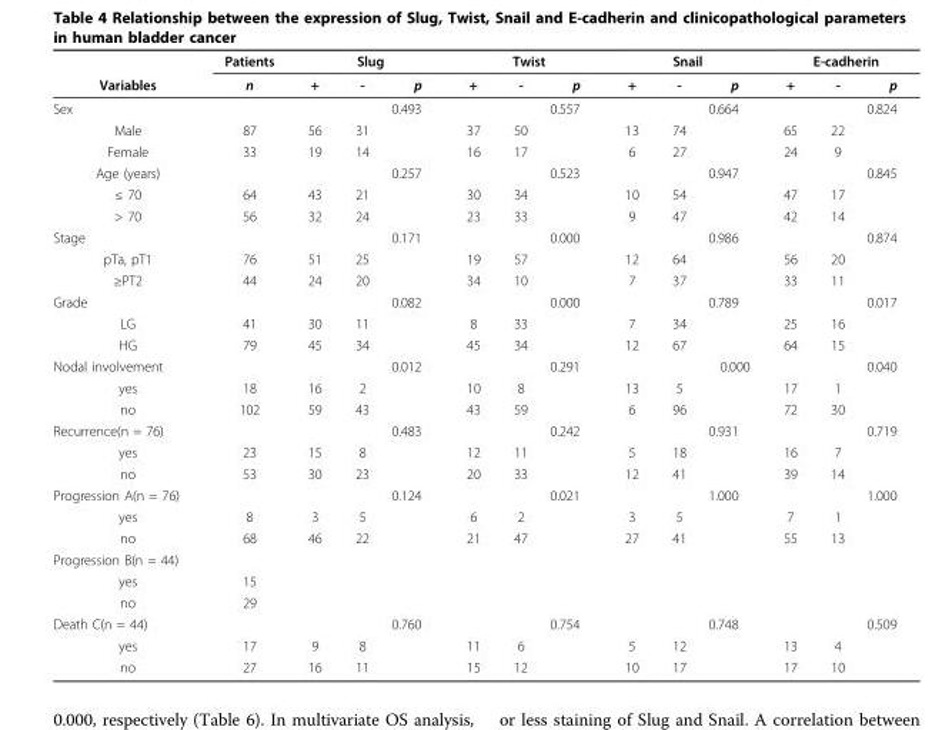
<table><thead><tr><td rowspan="2">Variables</td><td rowspan="2">Patients n</td><td colspan="3">Slug</td><td colspan="3">Twist</td><td colspan="3">Snail</td><td colspan="3">E-cadherin</td></tr><tr><td>+</td><td>-</td><td>p</td><td>+</td><td>-</td><td>p</td><td>+</td><td>-</td><td>p</td><td>+</td><td>-</td><td>p</td></tr></thead><tbody><tr><td>Sex</td><td></td><td></td><td></td><td>0.493</td><td></td><td></td><td>0.557</td><td></td><td></td><td>0.664</td><td></td><td></td><td>0.824</td></tr><tr><td>Male</td><td>87</td><td>56</td><td>31</td><td></td><td>37</td><td>50</td><td></td><td>13</td><td>74</td><td></td><td>65</td><td>22</td><td></td></tr><tr><td>Female</td><td>33</td><td>19</td><td>14</td><td></td><td>16</td><td>17</td><td></td><td>6</td><td>27</td><td></td><td>24</td><td>9</td><td></td></tr><tr><td>Age (years)</td><td></td><td></td><td></td><td>0.257</td><td></td><td></td><td>0.523</td><td></td><td></td><td>0.947</td><td></td><td></td><td>0.845</td></tr><tr><td>≤ 70</td><td>64</td><td>43</td><td>21</td><td></td><td>30</td><td>34</td><td></td><td>10</td><td>54</td><td></td><td>47</td><td>17</td><td></td></tr><tr><td>&gt; 70</td><td>56</td><td>32</td><td>24</td><td></td><td>23</td><td>33</td><td></td><td>9</td><td>47</td><td></td><td>42</td><td>14</td><td></td></tr><tr><td>Stage</td><td></td><td></td><td></td><td>0.171</td><td></td><td></td><td>0.000</td><td></td><td></td><td>0.986</td><td></td><td></td><td>0.874</td></tr><tr><td>pTa, pT1</td><td>76</td><td>51</td><td>25</td><td></td><td>19</td><td>57</td><td></td><td>12</td><td>64</td><td></td><td>56</td><td>20</td><td></td></tr><tr><td>≥PT2</td><td>44</td><td>24</td><td>20</td><td></td><td>34</td><td>10</td><td></td><td>7</td><td>37</td><td></td><td>33</td><td>11</td><td></td></tr><tr><td>Grade</td><td></td><td></td><td></td><td>0.082</td><td></td><td></td><td>0.000</td><td></td><td></td><td>0.789</td><td></td><td></td><td>0.017</td></tr><tr><td>LG</td><td>41</td><td>30</td><td>11</td><td></td><td>8</td><td>33</td><td></td><td>7</td><td>34</td><td></td><td>25</td><td>16</td><td></td></tr><tr><td>HG</td><td>79</td><td>45</td><td>34</td><td></td><td>45</td><td>34</td><td></td><td>12</td><td>67</td><td></td><td>64</td><td>15</td><td></td></tr><tr><td>Nodal involvement</td><td></td><td></td><td></td><td>0.012</td><td></td><td></td><td>0.291</td><td></td><td></td><td>0.000</td><td></td><td></td><td>0.040</td></tr><tr><td>yes</td><td>18</td><td>16</td><td>2</td><td></td><td>10</td><td>8</td><td></td><td>13</td><td>5</td><td></td><td>17</td><td>1</td><td></td></tr><tr><td>no</td><td>102</td><td>59</td><td>43</td><td></td><td>43</td><td>59</td><td></td><td>6</td><td>96</td><td></td><td>72</td><td>30</td><td></td></tr><tr><td>Recurrence(n = 76)</td><td></td><td></td><td></td><td>0.483</td><td></td><td></td><td>0.242</td><td></td><td></td><td>0.931</td><td></td><td></td><td>0.719</td></tr><tr><td>yes</td><td>23</td><td>15</td><td>8</td><td></td><td>12</td><td>11</td><td></td><td>5</td><td>18</td><td></td><td>16</td><td>7</td><td></td></tr><tr><td>no</td><td>53</td><td>30</td><td>23</td><td></td><td>20</td><td>33</td><td></td><td>12</td><td>41</td><td></td><td>39</td><td>14</td><td></td></tr><tr><td>Progression A(n = 76)</td><td></td><td></td><td></td><td>0.124</td><td></td><td></td><td>0.021</td><td></td><td></td><td>1.000</td><td></td><td></td><td>1.000</td></tr><tr><td>yes</td><td>8</td><td>3</td><td>5</td><td></td><td>6</td><td>2</td><td></td><td>3</td><td>5</td><td></td><td>7</td><td>1</td><td></td></tr><tr><td>no</td><td>68</td><td>46</td><td>22</td><td></td><td>21</td><td>47</td><td></td><td>27</td><td>41</td><td></td><td>55</td><td>13</td><td></td></tr><tr><td colspan="14">Progression B(n = 44)</td></tr><tr><td>yes</td><td>15</td><td></td><td></td><td></td><td></td><td></td><td></td><td></td><td></td><td></td><td></td><td></td><td></td></tr><tr><td>no</td><td>29</td><td></td><td></td><td></td><td></td><td></td><td></td><td></td><td></td><td></td><td></td><td></td><td></td></tr><tr><td>Death C(n = 44)</td><td></td><td></td><td></td><td>0.760</td><td></td><td></td><td>0.754</td><td></td><td></td><td>0.748</td><td></td><td></td><td>0.509</td></tr><tr><td>yes</td><td>17</td><td>9</td><td>8</td><td></td><td>11</td><td>6</td><td></td><td>5</td><td>12</td><td></td><td>13</td><td>4</td><td></td></tr><tr><td>no</td><td>27</td><td>16</td><td>11</td><td></td><td>15</td><td>12</td><td></td><td>10</td><td>17</td><td></td><td>17</td><td>10</td><td></td></tr></tbody></table>